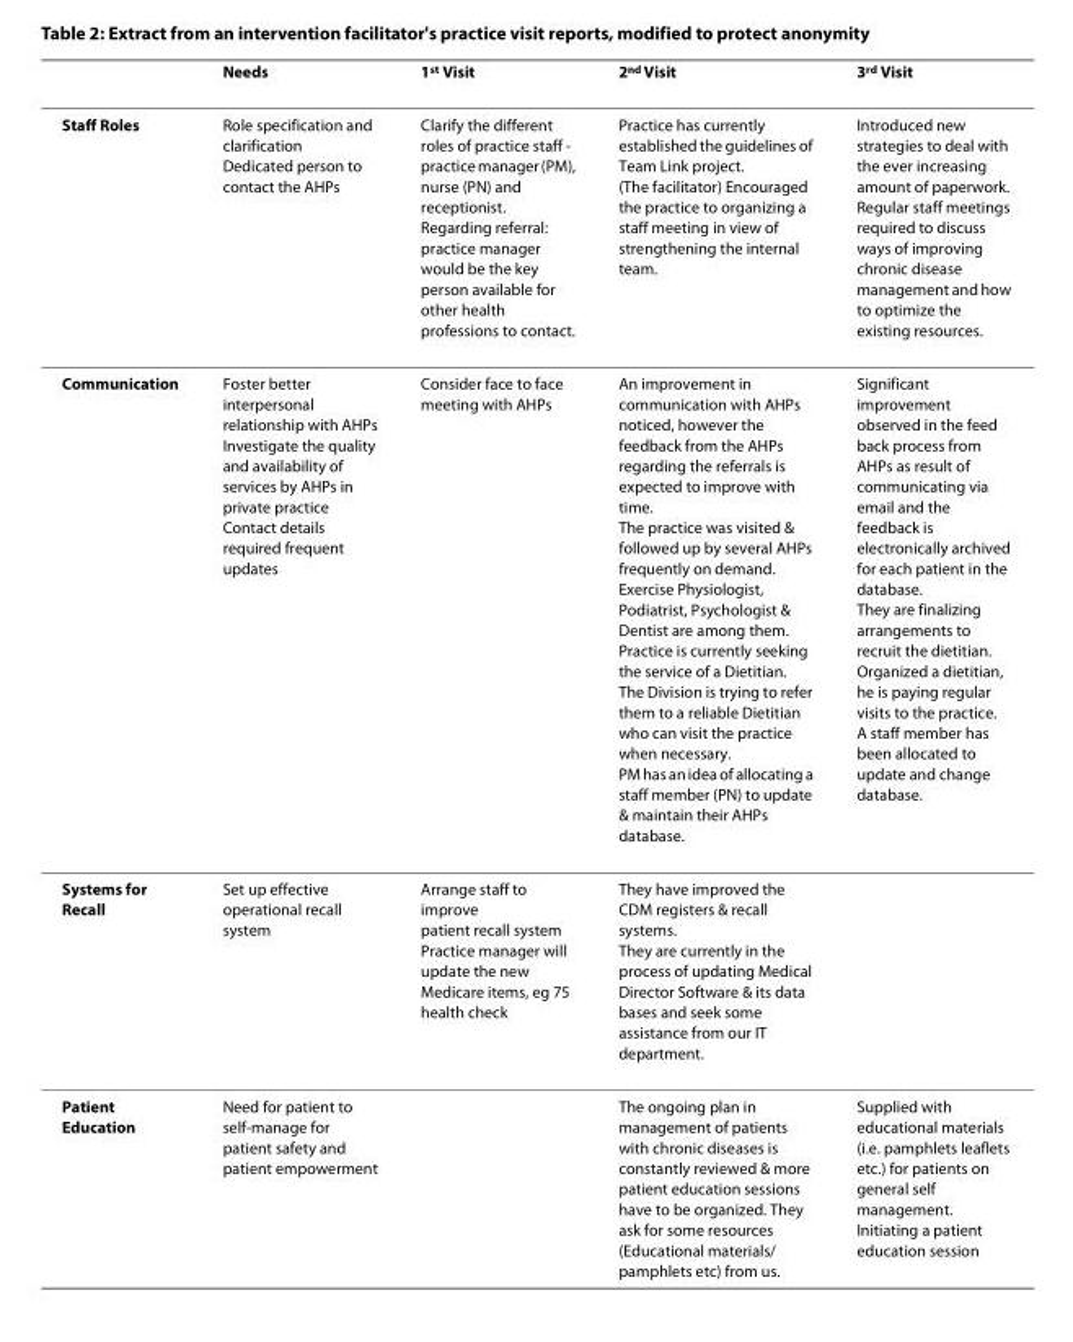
<table><thead><tr><td></td><td>Needs</td><td>1<sup>st</sup> Visit</td><td>2<sup>nd</sup> Visit</td><td>3<sup>rd</sup> Visit</td></tr></thead><tbody><tr><td>Staff Roles</td><td>Role specification and clarification Dedicated person to contact the AHPs</td><td>Clarify the different roles of practice staff - practice manager (PM), nurse (PN) and receptionist. Regarding referral: practice manager would be the key person available for other health professions to contact.</td><td>Practice has currently established the guidelines of Team Link project. (The facilitator) Encouraged the practice to organizing a staff meeting in view of strengthening the internal team.</td><td>Introduced new strategies to deal with the ever increasing amount of paperwork. Regular staff meetings required to discuss ways of improving chronic disease management and how to optimize the existing resources.</td></tr><tr><td>Communication</td><td>Foster better interpersonal relationship with AHPs Investigate the quality and availability of services by AHPs in private practice Contact details required frequent updates</td><td>Consider face to face meeting with AHPs</td><td>An improvement in communication with AHPs noticed, however the feedback from the AHPs regarding the referrals is expected to improve with time. The practice was visited &amp; followed up by several AHPs frequently on demand. Exercise Physiologist, Podiatrist, Psychologist &amp; Dentist are among them. Practice is currently seeking the service of a Dietitian. The Division is trying to refer them to a reliable Dietitian who can visit the practice when necessary. PM has an idea of allocating a staff member (PN) to update &amp; maintain their AHPs database.</td><td>Significant improvement observed in the feed back process from AHPs as result of communicating via email and the feedback is electronically archived for each patient in the database. They are finalizing arrangements to recruit the dietitian. Organized a dietitian, he is paying regular visits to the practice. A staff member has been allocated to update and change database.</td></tr><tr><td>Systems for Recall</td><td>Set up effective operational recall system</td><td>Arrange staff to improve patient recall system Practice manager will update the new Medicare items, eg 75 health check</td><td>They have improved the CDM registers &amp; recall systems. They are currently in the process of updating Medical Director Software &amp; its data bases and seek some assistance from our IT department.</td><td></td></tr><tr><td>Patient Education</td><td>Need for patient to self-manage for patient safety and patient empowerment</td><td></td><td>The ongoing plan in management of patients with chronic diseases is constantly reviewed &amp; more patient education sessions have to be organized. They ask for some resources (Educational materials/ pamphlets etc) from us.</td><td>Supplied with educational materials (i.e. pamphlets leaflets etc.) for patients on general self management. Initiating a patient education session</td></tr></tbody></table>